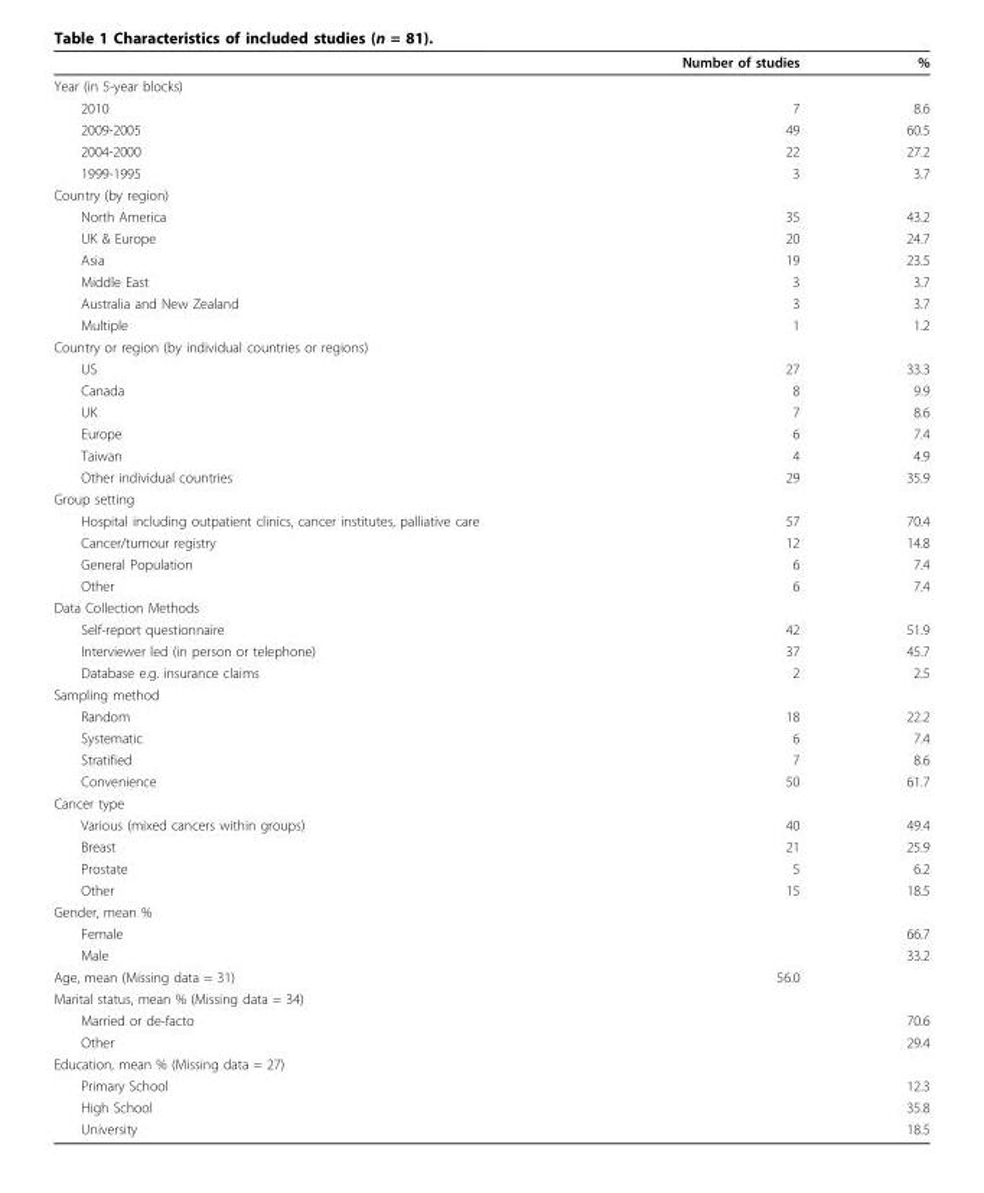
<table><thead><tr><td></td><td>Number of studies</td><td>%</td></tr></thead><tbody><tr><td colspan="3">Year (in 5-year blocks)</td></tr><tr><td>2010</td><td>7</td><td>8.6</td></tr><tr><td>2009-2005</td><td>49</td><td>60.5</td></tr><tr><td>2004-2000</td><td>22</td><td>27.2</td></tr><tr><td>1999-1995</td><td>3</td><td>3.7</td></tr><tr><td colspan="3">Country (by region)</td></tr><tr><td>North America</td><td>35</td><td>43.2</td></tr><tr><td>UK &amp; Europe</td><td>20</td><td>24.7</td></tr><tr><td>Asia</td><td>19</td><td>23.5</td></tr><tr><td>Middle East</td><td>3</td><td>3.7</td></tr><tr><td>Australia and New Zealand</td><td>3</td><td>3.7</td></tr><tr><td>Multiple</td><td>1</td><td>1.2</td></tr><tr><td colspan="3">Country or region (by individual countries or regions)</td></tr><tr><td>US</td><td>27</td><td>33.3</td></tr><tr><td>Canada</td><td>8</td><td>9.9</td></tr><tr><td>UK</td><td>7</td><td>8.6</td></tr><tr><td>Europe</td><td>6</td><td>7.4</td></tr><tr><td>Taiwan</td><td>4</td><td>4.9</td></tr><tr><td>Other individual countries</td><td>29</td><td>35.9</td></tr><tr><td colspan="3">Group setting</td></tr><tr><td>Hospital including outpatient clinics, cancer institutes, palliative care</td><td>57</td><td>70.4</td></tr><tr><td>Cancer/tumour registry</td><td>12</td><td>14.8</td></tr><tr><td>General Population</td><td>6</td><td>7.4</td></tr><tr><td>Other</td><td>6</td><td>7.4</td></tr><tr><td colspan="3">Data Collection Methods</td></tr><tr><td>Self-report questionnaire</td><td>42</td><td>51.9</td></tr><tr><td>Interviewer led (in person or telephone)</td><td>37</td><td>45.7</td></tr><tr><td>Database e.g. insurance claims</td><td>2</td><td>2.5</td></tr><tr><td colspan="3">Sampling method</td></tr><tr><td>Random</td><td>18</td><td>22.2</td></tr><tr><td>Systematic</td><td>6</td><td>7.4</td></tr><tr><td>Stratified</td><td>7</td><td>8.6</td></tr><tr><td>Convenience</td><td>50</td><td>61.7</td></tr><tr><td colspan="3">Cancer type</td></tr><tr><td>Various (mixed cancers within groups)</td><td>40</td><td>49.4</td></tr><tr><td>Breast</td><td>21</td><td>25.9</td></tr><tr><td>Prostate</td><td>5</td><td>6.2</td></tr><tr><td>Other</td><td>15</td><td>18.5</td></tr><tr><td colspan="3">Gender, mean %</td></tr><tr><td>Female</td><td></td><td>66.7</td></tr><tr><td>Male</td><td></td><td>33.2</td></tr><tr><td>Age, mean (Missing data = 31)</td><td>56.0</td><td></td></tr><tr><td colspan="3">Marital status, mean % (Missing data = 34)</td></tr><tr><td>Married or de-facto</td><td></td><td>70.6</td></tr><tr><td>Other</td><td></td><td>29.4</td></tr><tr><td colspan="3">Education, mean % (Missing data = 27)</td></tr><tr><td>Primary School</td><td></td><td>12.3</td></tr><tr><td>High School</td><td></td><td>35.8</td></tr><tr><td>University</td><td></td><td>18.5</td></tr></tbody></table>